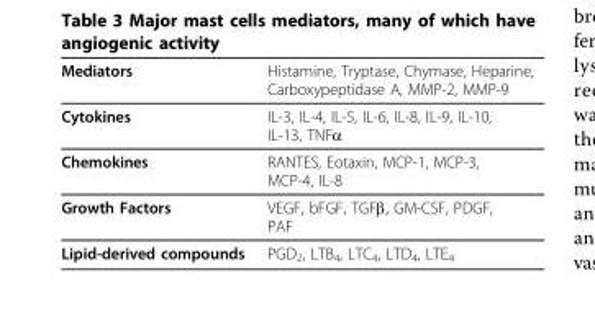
<table><thead><tr><td>Mediators</td><td>Histamine, Tryptase, Chymase, Heparine, Carboxypeptidase A, MMP-2, MMP-9</td></tr></thead><tbody><tr><td>Cytokines</td><td>IL-3, IL-4, IL-5, IL-6, IL-8, IL-9, IL-10, IL-13, TNFα</td></tr><tr><td>Chemokines</td><td>RANTES, Eotaxin, MCP-1, MCP-3, MCP-4, IL-8</td></tr><tr><td>Growth Factors</td><td>VEGF, bFGF, TGFβ, GM-CSF, PDGF, PAF</td></tr><tr><td>Lipid-derived compounds</td><td>PGD<sub>2</sub>, LTB<sub>4</sub>, LTC<sub>4</sub>, LTD<sub>4</sub>, LTE<sub>4</sub></td></tr></tbody></table>